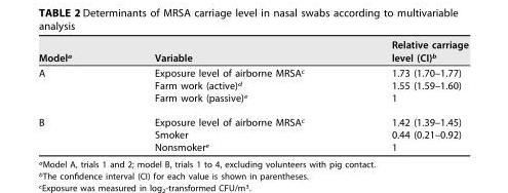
<table><thead><tr><td>Model<sup>a</sup></td><td>Variable</td><td>Relative carriage level (CI)<sup>b</sup></td></tr></thead><tbody><tr><td rowspan="3">A</td><td>Exposure level of airborne MRSA<sup>c</sup></td><td>1.73 (1.70–1.77)</td></tr><tr><td>Farm work (active)<sup>d</sup></td><td>1.55 (1.59–1.60)</td></tr><tr><td>Farm work (passive)<sup>e</sup></td><td>1</td></tr><tr><td rowspan="3">B</td><td>Exposure level of airborne MRSA<sup>c</sup></td><td>1.42 (1.39–1.45)</td></tr><tr><td>Smoker</td><td>0.44 (0.21–0.92)</td></tr><tr><td>Nonsmoker<sup>e</sup></td><td>1</td></tr></tbody></table>